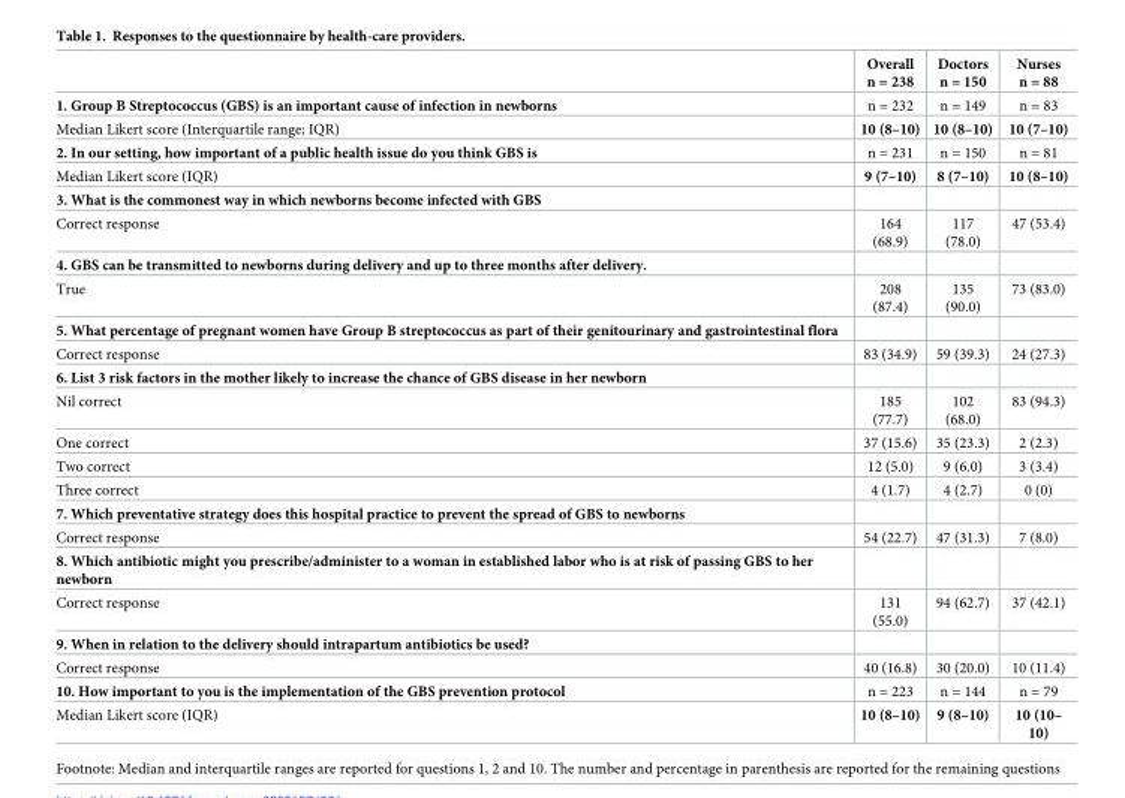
<table><thead><tr><td></td><td>Overall n = 238</td><td>Doctors n = 150</td><td>Nurses n = 88</td></tr></thead><tbody><tr><td>1. Group B Streptococcus (GBS) is an important cause of infection in newborns</td><td>n = 232</td><td>n = 149</td><td>n = 83</td></tr><tr><td>Median Likert score (Interquartile range; IQR)</td><td>10 (8–10)</td><td>10 (8–10)</td><td>10 (7–10)</td></tr><tr><td>2. In our setting, how important of a public health issue do you think GBS is</td><td>n = 231</td><td>n = 150</td><td>n = 81</td></tr><tr><td>Median Likert score (IQR)</td><td>9 (7–10)</td><td>8 (7–10)</td><td>10 (8–10)</td></tr><tr><td colspan="4">3. What is the commonest way in which newborns become infected with GBS</td></tr><tr><td>Correct response</td><td>164 (68.9)</td><td>117 (78.0)</td><td>47 (53.4)</td></tr><tr><td colspan="4">4. GBS can be transmitted to newborns during delivery and up to three months after delivery.</td></tr><tr><td>True</td><td>208 (87.4)</td><td>135 (90.0)</td><td>73 (83.0)</td></tr><tr><td colspan="4">5. What percentage of pregnant women have Group B streptococcus as part of their genitourinary and gastrointestinal flora</td></tr><tr><td>Correct response</td><td>83 (34.9)</td><td>59 (39.3)</td><td>24 (27.3)</td></tr><tr><td colspan="4">6. List 3 risk factors in the mother likely to increase the chance of GBS disease in her newborn</td></tr><tr><td>Nil correct</td><td>185 (77.7)</td><td>102 (68.0)</td><td>83 (94.3)</td></tr><tr><td>One correct</td><td>37 (15.6)</td><td>35 (23.3)</td><td>2 (2.3)</td></tr><tr><td>Two correct</td><td>12 (5.0)</td><td>9 (6.0)</td><td>3 (3.4)</td></tr><tr><td>Three correct</td><td>4 (1.7)</td><td>4 (2.7)</td><td>0 (0)</td></tr><tr><td colspan="4">7. Which preventative strategy does this hospital practice to prevent the spread of GBS to newborns</td></tr><tr><td>Correct response</td><td>54 (22.7)</td><td>47 (31.3)</td><td>7 (8.0)</td></tr><tr><td colspan="4">8. Which antibiotic might you prescribe/administer to a woman in established labor who is at risk of passing GBS to her newborn</td></tr><tr><td>Correct response</td><td>131 (55.0)</td><td>94 (62.7)</td><td>37 (42.1)</td></tr><tr><td colspan="4">9. When in relation to the delivery should intrapartum antibiotics be used?</td></tr><tr><td>Correct response</td><td>40 (16.8)</td><td>30 (20.0)</td><td>10 (11.4)</td></tr><tr><td>10. How important to you is the implementation of the GBS prevention protocol</td><td>n = 223</td><td>n = 144</td><td>n = 79</td></tr><tr><td>Median Likert score (IQR)</td><td>10 (8–10)</td><td>9 (8–10)</td><td>10 (10– 10)</td></tr></tbody></table>